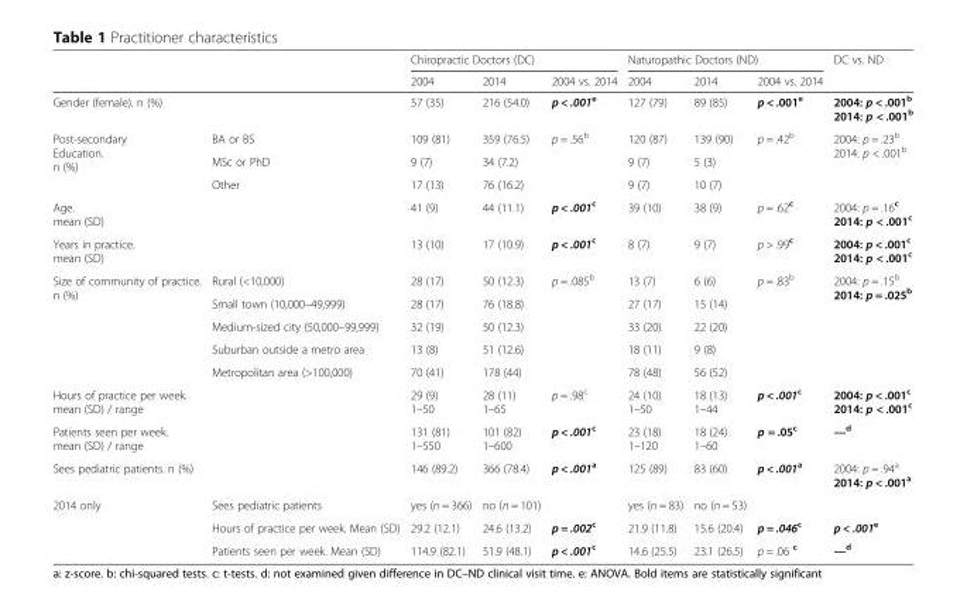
<table><thead><tr><td rowspan="2"></td><td rowspan="2"></td><td colspan="3">Chiropractic Doctors (DC)</td><td colspan="3">Naturopathic Doctors (ND)</td><td rowspan="2">DC vs. ND</td></tr><tr><td>2004</td><td>2014</td><td>2004 vs. 2014</td><td>2004</td><td>2014</td><td>2004 vs. 2014</td></tr></thead><tbody><tr><td colspan="2">Gender (female). n (%)</td><td>57 (35)</td><td>216 (54.0)</td><td>p &lt; .001<sup>e</sup></td><td>127 (79)</td><td>89 (85)</td><td>p &lt; .001<sup>e</sup></td><td>2004: p &lt; .001<sup>b</sup> 2014: p &lt; .001<sup>b</sup></td></tr><tr><td rowspan="3">Post-secondary Education. n (%)</td><td>BA or BS</td><td>109 (81)</td><td>359 (76.5)</td><td rowspan="3">p = .56<sup>b</sup></td><td>120 (87)</td><td>139 (90)</td><td rowspan="3">p = .42<sup>b</sup></td><td rowspan="3">2004: p = .23<sup>b</sup> 2014: p &lt; .001<sup>b</sup></td></tr><tr><td>MSc or PhD</td><td>9 (7)</td><td>34 (7.2)</td><td>9 (7)</td><td>5 (3)</td></tr><tr><td>Other</td><td>17 (13)</td><td>76 (16.2)</td><td>9 (7)</td><td>10 (7)</td></tr><tr><td colspan="2">Age. mean (SD)</td><td>41 (9)</td><td>44 (11.1)</td><td>p &lt; .001<sup>c</sup></td><td>39 (10)</td><td>38 (9)</td><td>p = .62<sup>c</sup></td><td>2004: p = .16<sup>c</sup> 2014: p &lt; .001<sup>c</sup></td></tr><tr><td colspan="2">Years in practice. mean (SD)</td><td>13 (10)</td><td>17 (10.9)</td><td>p &lt; .001<sup>c</sup></td><td>8 (7)</td><td>9 (7)</td><td>p &gt; .99<sup>c</sup></td><td>2004: p &lt; .001<sup>c</sup> 2014: p &lt; .001<sup>c</sup></td></tr><tr><td rowspan="5">Size of community of practice. n (%)</td><td>Rural (&lt;10,000)</td><td>28 (17)</td><td>50 (12.3)</td><td rowspan="5">p = .085<sup>b</sup></td><td>13 (7)</td><td>6 (6)</td><td rowspan="5">p = .83<sup>b</sup></td><td rowspan="5">2004: p = .15<sup>b</sup> 2014: p = .025<sup>b</sup></td></tr><tr><td>Small town (10,000–49,999)</td><td>28 (17)</td><td>76 (18.8)</td><td>27 (17)</td><td>15 (14)</td></tr><tr><td>Medium-sized city (50,000–99,999)</td><td>32 (19)</td><td>50 (12.3)</td><td>33 (20)</td><td>22 (20)</td></tr><tr><td>Suburban outside a metro area</td><td>13 (8)</td><td>51 (12.6)</td><td>18 (11)</td><td>9 (8)</td></tr><tr><td>Metropolitan area (&gt;100,000)</td><td>70 (41)</td><td>178 (44)</td><td>78 (48)</td><td>56 (52)</td></tr><tr><td colspan="2">Hours of practice per week. mean (SD) / range</td><td>29 (9) 1–50</td><td>28 (11) 1–65</td><td>p = .98<sup>c</sup></td><td>24 (10) 1–50</td><td>18 (13) 1–44</td><td>p &lt; .001<sup>c</sup></td><td>2004: p &lt; .001<sup>c</sup> 2014: p &lt; .001<sup>c</sup></td></tr><tr><td colspan="2">Patients seen per week. mean (SD) / range</td><td>131 (81) 1–550</td><td>101 (82) 1–600</td><td>p &lt; .001<sup>c</sup></td><td>23 (18) 1–120</td><td>18 (24) 1–60</td><td>p = .05<sup>c</sup></td><td>—<sup>d</sup></td></tr><tr><td>Sees pediatric patients. n (%)</td><td></td><td>146 (89.2)</td><td>366 (78.4)</td><td>p &lt; .001<sup>a</sup></td><td>125 (89)</td><td>83 (60)</td><td>p &lt; .001<sup>a</sup></td><td>2004: p = .94<sup>a</sup> 2014: p &lt; .001<sup>a</sup></td></tr><tr><td rowspan="3">2014 only</td><td>Sees pediatric patients</td><td>yes (n = 366)</td><td>no (n = 101)</td><td></td><td>yes (n = 83)</td><td>no (n = 53)</td><td></td><td></td></tr><tr><td>Hours of practice per week. Mean (SD)</td><td>29.2 (12.1)</td><td>24.6 (13.2)</td><td>p = .002<sup>c</sup></td><td>21.9 (11.8)</td><td>15.6 (20.4)</td><td>p = .046<sup>c</sup></td><td>p &lt; .001<sup>e</sup></td></tr><tr><td>Patients seen per week. Mean (SD)</td><td>114.9 (82.1)</td><td>51.9 (48.1)</td><td>p &lt; .001<sup>c</sup></td><td>14.6 (25.5)</td><td>23.1 (26.5)</td><td>p = .06 <sup>c</sup></td><td>—<sup>d</sup></td></tr></tbody></table>